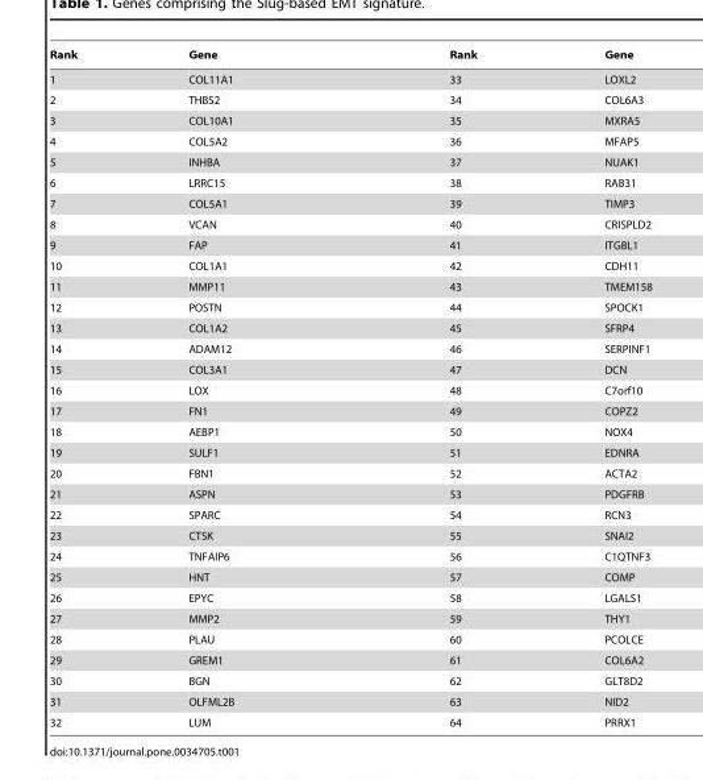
<table><thead><tr><td>Rank</td><td>Gene</td><td>Rank</td><td>Gene</td></tr></thead><tbody><tr><td>1</td><td>COL11A1</td><td>33</td><td>LOXL2</td></tr><tr><td>2</td><td>THBS2</td><td>34</td><td>COL6A3</td></tr><tr><td>3</td><td>COL10A1</td><td>35</td><td>MXRA5</td></tr><tr><td>4</td><td>COL5A2</td><td>36</td><td>MFAP5</td></tr><tr><td>5</td><td>INHBA</td><td>37</td><td>NUAK1</td></tr><tr><td>6</td><td>LRRC15</td><td>38</td><td>RAB31</td></tr><tr><td>7</td><td>COL5A1</td><td>39</td><td>TIMP3</td></tr><tr><td>8</td><td>VCAN</td><td>40</td><td>CRISPLD2</td></tr><tr><td>9</td><td>FAP</td><td>41</td><td>ITGBL1</td></tr><tr><td>10</td><td>COL1A1</td><td>42</td><td>CDH11</td></tr><tr><td>11</td><td>MMP11</td><td>43</td><td>TMEM158</td></tr><tr><td>12</td><td>POSTN</td><td>44</td><td>SPOCK1</td></tr><tr><td>13</td><td>COL1A2</td><td>45</td><td>SFRP4</td></tr><tr><td>14</td><td>ADAM12</td><td>46</td><td>SERPINF1</td></tr><tr><td>15</td><td>COL3A1</td><td>47</td><td>DCN</td></tr><tr><td>16</td><td>LOX</td><td>48</td><td>C7orf10</td></tr><tr><td>17</td><td>FN1</td><td>49</td><td>COPZ2</td></tr><tr><td>18</td><td>AEBP1</td><td>50</td><td>NOX4</td></tr><tr><td>19</td><td>SULF1</td><td>51</td><td>EDNRA</td></tr><tr><td>20</td><td>FBN1</td><td>52</td><td>ACTA2</td></tr><tr><td>21</td><td>ASPN</td><td>53</td><td>PDGFRB</td></tr><tr><td>22</td><td>SPARC</td><td>54</td><td>RCN3</td></tr><tr><td>23</td><td>CTSK</td><td>55</td><td>SNAI2</td></tr><tr><td>24</td><td>TNFAIP6</td><td>56</td><td>C1QTNF3</td></tr><tr><td>25</td><td>HNT</td><td>57</td><td>COMP</td></tr><tr><td>26</td><td>EPYC</td><td>58</td><td>LGALS1</td></tr><tr><td>27</td><td>MMP2</td><td>59</td><td>THY1</td></tr><tr><td>28</td><td>PLAU</td><td>60</td><td>PCOLCE</td></tr><tr><td>29</td><td>GREM1</td><td>61</td><td>COL6A2</td></tr><tr><td>30</td><td>BGN</td><td>62</td><td>GLT8D2</td></tr><tr><td>31</td><td>OLFML2B</td><td>63</td><td>NID2</td></tr><tr><td>32</td><td>LUM</td><td>64</td><td>PRRX1</td></tr></tbody></table>